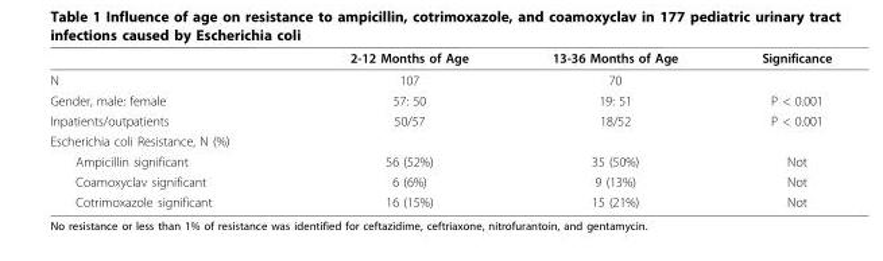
<table><thead><tr><td></td><td>2-12 Months of Age</td><td>13-36 Months of Age</td><td>Significance</td></tr></thead><tbody><tr><td>N</td><td>107</td><td>70</td><td></td></tr><tr><td>Gender, male: female</td><td>57: 50</td><td>19: 51</td><td>P &lt; 0.001</td></tr><tr><td>Inpatients/outpatients</td><td>50/57</td><td>18/52</td><td>P &lt; 0.001</td></tr><tr><td colspan="4">Escherichia coli Resistance, N (%)</td></tr><tr><td>Ampicillin significant</td><td>56 (52%)</td><td>35 (50%)</td><td>Not</td></tr><tr><td>Coamoxyclav significant</td><td>6 (6%)</td><td>9 (13%)</td><td>Not</td></tr><tr><td>Cotrimoxazole significant</td><td>16 (15%)</td><td>15 (21%)</td><td>Not</td></tr></tbody></table>